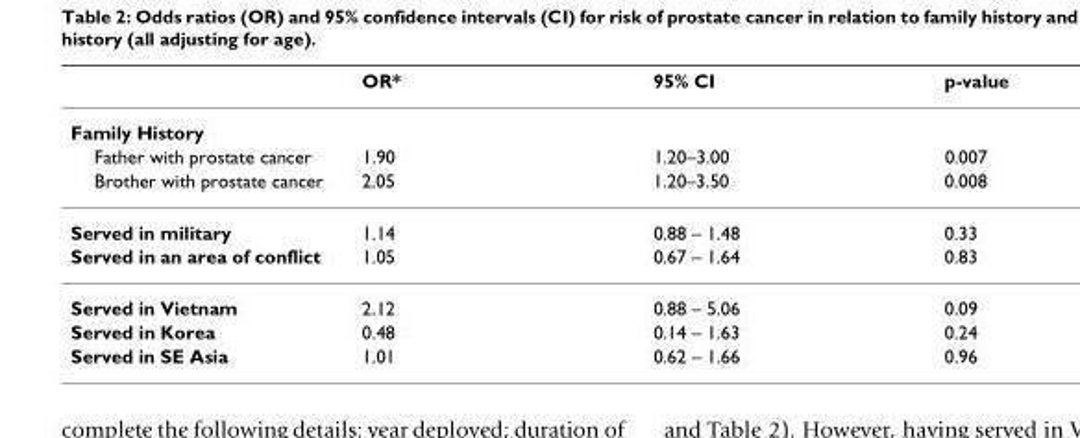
<table><thead><tr><td></td><td>OR*</td><td>95% CI</td><td>p-value</td></tr></thead><tbody><tr><td colspan="4">Family History</td></tr><tr><td>Father with prostate cancer</td><td>1.90</td><td>1.20–3.00</td><td>0.007</td></tr><tr><td>Brother with prostate cancer</td><td>2.05</td><td>1.20–3.50</td><td>0.008</td></tr><tr><td>Served in military</td><td>1.14</td><td>0.88 – 1.48</td><td>0.33</td></tr><tr><td>Served in an area of conflict</td><td>1.05</td><td>0.67 – 1.64</td><td>0.83</td></tr><tr><td>Served in Vietnam</td><td>2.12</td><td>0.88 – 5.06</td><td>0.09</td></tr><tr><td>Served in Korea</td><td>0.48</td><td>0.14 – 1.63</td><td>0.24</td></tr><tr><td>Served in SE Asia</td><td>1.01</td><td>0.62 – 1.66</td><td>0.96</td></tr></tbody></table>